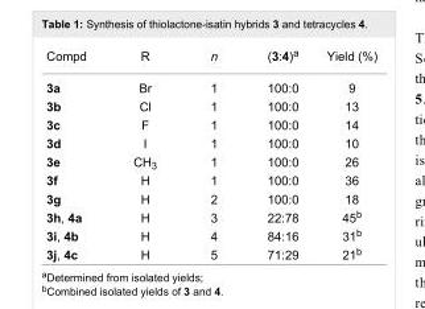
<table><tbody><tr><td>Compd</td><td>R</td><td>n</td><td>(3:4)<sup>a</sup></td><td>Yield (%)</td></tr><tr><td>3a</td><td>Br</td><td>1</td><td>100:0</td><td>9</td></tr><tr><td>3b</td><td>Cl</td><td>1</td><td>100:0</td><td>13</td></tr><tr><td>3c</td><td>F</td><td>1</td><td>100:0</td><td>14</td></tr><tr><td>3d</td><td>I</td><td>1</td><td>100:0</td><td>10</td></tr><tr><td>3e</td><td>CH<sub>3</sub></td><td>1</td><td>100:0</td><td>26</td></tr><tr><td>3f</td><td>H</td><td>1</td><td>100:0</td><td>36</td></tr><tr><td>3g</td><td>H</td><td>2</td><td>100:0</td><td>18</td></tr><tr><td>3h, 4a</td><td>H</td><td>3</td><td>22:78</td><td>45<sup>b</sup></td></tr><tr><td>3i, 4b</td><td>H</td><td>4</td><td>84:16</td><td>31<sup>b</sup></td></tr><tr><td>3j, 4c</td><td>H</td><td>5</td><td>71:29</td><td>21<sup>b</sup></td></tr></tbody></table>